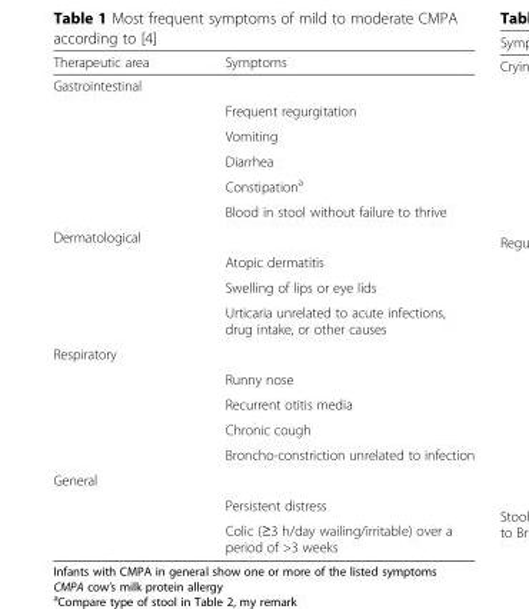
<table><thead><tr><td>Therapeutic area</td><td>Symptoms</td></tr></thead><tbody><tr><td colspan="2">Gastrointestinal</td></tr><tr><td></td><td>Frequent regurgitation</td></tr><tr><td></td><td>Vomiting</td></tr><tr><td></td><td>Diarrhea</td></tr><tr><td></td><td>Constipation<sup>a</sup></td></tr><tr><td></td><td>Blood in stool without failure to thrive</td></tr><tr><td colspan="2">Dermatological</td></tr><tr><td></td><td>Atopic dermatitis</td></tr><tr><td></td><td>Swelling of lips or eye lids</td></tr><tr><td></td><td>Urticaria unrelated to acute infections, drug intake, or other causes</td></tr><tr><td colspan="2">Respiratory</td></tr><tr><td></td><td>Runny nose</td></tr><tr><td></td><td>Recurrent otitis media</td></tr><tr><td></td><td>Chronic cough</td></tr><tr><td></td><td>Broncho-constriction unrelated to infection</td></tr><tr><td colspan="2">General</td></tr><tr><td></td><td>Persistent distress</td></tr><tr><td></td><td>Colic (≥3 h/day wailing/irritable) over a period of &gt;3 weeks</td></tr></tbody></table>